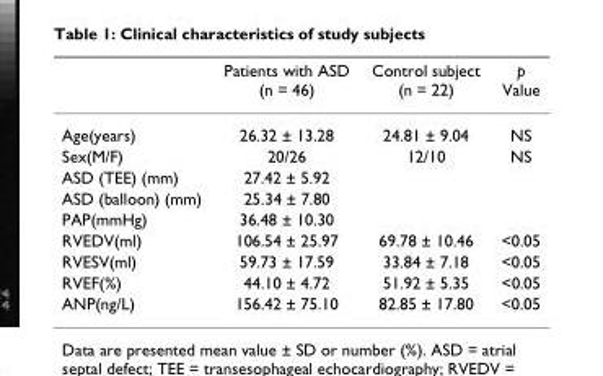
<table><thead><tr><td></td><td>Patients with ASD (n = 46)</td><td>Control subject (n = 22)</td><td>p Value</td></tr></thead><tbody><tr><td>Age(years)</td><td>26.32 ± 13.28</td><td>24.81 ± 9.04</td><td>NS</td></tr><tr><td>Sex(M/F)</td><td>20/26</td><td>12/10</td><td>NS</td></tr><tr><td>ASD (TEE) (mm)</td><td>27.42 ± 5.92</td><td></td><td></td></tr><tr><td>ASD (balloon) (mm)</td><td>25.34 ± 7.80</td><td></td><td></td></tr><tr><td>PAP(mmHg)</td><td>36.48 ± 10.30</td><td></td><td></td></tr><tr><td>RVEDV(ml)</td><td>106.54 ± 25.97</td><td>69.78 ± 10.46</td><td>&lt;0.05</td></tr><tr><td>RVESV(ml)</td><td>59.73 ± 17.59</td><td>33.84 ± 7.18</td><td>&lt;0.05</td></tr><tr><td>RVEF(%)</td><td>44.10 ± 4.72</td><td>51.92 ± 5.35</td><td>&lt;0.05</td></tr><tr><td>ANP(ng/L)</td><td>156.42 ± 75.10</td><td>82.85 ± 17.80</td><td>&lt;0.05</td></tr></tbody></table>